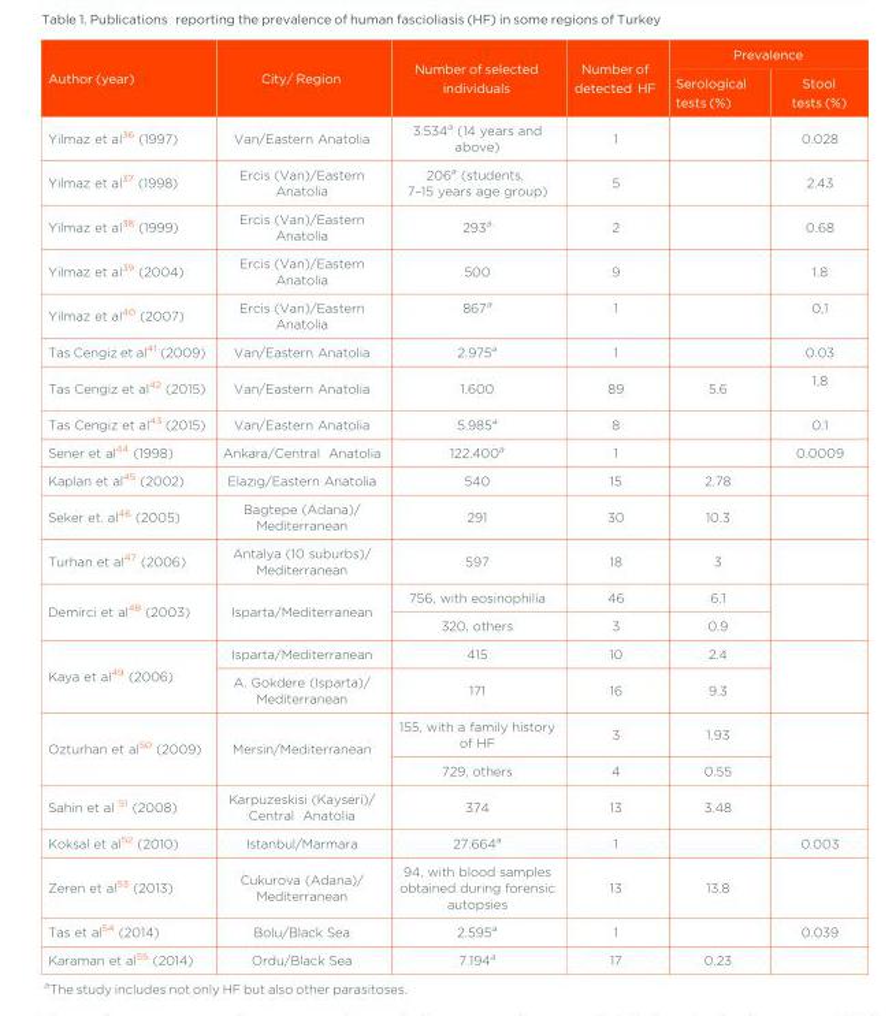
<table><thead><tr><td rowspan="2">Author (year)</td><td rowspan="2">City/ Region</td><td rowspan="2">Number of selected individuals</td><td rowspan="2">Number of detected HF</td><td colspan="2">Prevalence</td></tr><tr><td>Serological tests (%)</td><td>Stool tests (%)</td></tr></thead><tbody><tr><td>Yilmaz et al<sup>36</sup> (1997)</td><td>Van/Eastern Anatolia</td><td>3.534<sup>a</sup> (14 years and above)</td><td>1</td><td></td><td>0.028</td></tr><tr><td>Yilmaz et al<sup>37</sup> (1998)</td><td>Ercis (Van)/Eastern Anatolia</td><td>206<sup>a</sup> (students, 7–15 years age group)</td><td>5</td><td></td><td>2.43</td></tr><tr><td>Yilmaz et al<sup>38</sup> (1999)</td><td>Ercis (Van)/Eastern Anatolia</td><td>293<sup>a</sup></td><td>2</td><td></td><td>0.68</td></tr><tr><td>Yilmaz et al<sup>39</sup> (2004)</td><td>Ercis (Van)/Eastern Anatolia</td><td>500</td><td>9</td><td></td><td>1.8</td></tr><tr><td>Yilmaz et al<sup>40</sup> (2007)</td><td>Ercis (Van)/Eastern Anatolia</td><td>867<sup>a</sup></td><td>1</td><td></td><td>0,1</td></tr><tr><td>Tas Cengiz et al<sup>41</sup> (2009)</td><td>Van/Eastern Anatolia</td><td>2.975<sup>a</sup></td><td>1</td><td></td><td>0.03</td></tr><tr><td>Tas Cengiz et al<sup>42</sup> (2015)</td><td>Van/Eastern Anatolia</td><td>1.600</td><td>89</td><td>5.6</td><td>1,8</td></tr><tr><td>Tas Cengiz et al<sup>43</sup> (2015)</td><td>Van/Eastern Anatolia</td><td>5.985<sup>a</sup></td><td>8</td><td></td><td>0.1</td></tr><tr><td>Sener et al<sup>44</sup> (1998)</td><td>Ankara/Central Anatolia</td><td>122.400<sup>a</sup></td><td>1</td><td></td><td>0.0009</td></tr><tr><td>Kaplan et al<sup>45</sup> (2002)</td><td>Elazıg/Eastern Anatolia</td><td>540</td><td>15</td><td>2.78</td><td></td></tr><tr><td>Seker et. al<sup>46</sup> (2005)</td><td>Bagtepe (Adana)/ Mediterranean</td><td>291</td><td>30</td><td>10.3</td><td></td></tr><tr><td>Turhan et al<sup>47</sup> (2006)</td><td>Antalya (10 suburbs)/ Mediterranean</td><td>597</td><td>18</td><td>3</td><td></td></tr><tr><td rowspan="2">Demirci et al<sup>48</sup> (2003)</td><td rowspan="2">Isparta/Mediterranean</td><td>756, with eosinophilia</td><td>46</td><td>6.1</td><td rowspan="2"></td></tr><tr><td>320, others</td><td>3</td><td>0.9</td></tr><tr><td rowspan="2">Kaya et al<sup>49</sup> (2006)</td><td>Isparta/Mediterranean</td><td>415</td><td>10</td><td>2.4</td><td rowspan="2"></td></tr><tr><td>A. Gokdere (Isparta)/ Mediterranean</td><td>171</td><td>16</td><td>9.3</td></tr><tr><td rowspan="2">Ozturhan et al<sup>50</sup> (2009)</td><td rowspan="2">Mersin/Mediterranean</td><td>155, with a family history of HF</td><td>3</td><td>1.93</td><td rowspan="2"></td></tr><tr><td>729, others</td><td>4</td><td>0.55</td></tr><tr><td>Sahin et al <sup>51</sup> (2008)</td><td>Karpuzeskisi (Kayseri)/ Central Anatolia</td><td>374</td><td>13</td><td>3.48</td><td></td></tr><tr><td>Koksal et al<sup>52</sup> (2010)</td><td>Istanbul/Marmara</td><td>27.664<sup>a</sup></td><td>1</td><td></td><td>0.003</td></tr><tr><td>Zeren et al<sup>53</sup> (2013)</td><td>Cukurova (Adana)/ Mediterranean</td><td>94, with blood samples obtained during forensic autopsies</td><td>13</td><td>13.8</td><td></td></tr><tr><td>Tas et al<sup>54</sup> (2014)</td><td>Bolu/Black Sea</td><td>2.595<sup>a</sup></td><td>1</td><td></td><td>0.039</td></tr><tr><td>Karaman et al<sup>55</sup> (2014)</td><td>Ordu/Black Sea</td><td>7.194<sup>a</sup></td><td>17</td><td>0.23</td><td></td></tr></tbody></table>